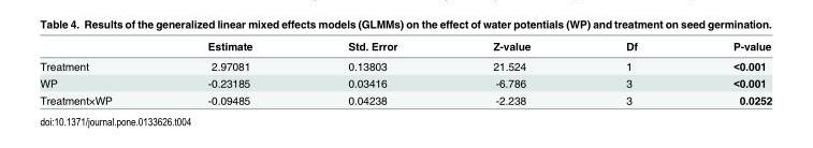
<table><thead><tr><td></td><td>Estimate</td><td>Std. Error</td><td>Z-value</td><td>Df</td><td>P-value</td></tr></thead><tbody><tr><td>Treatment</td><td>2.97081</td><td>0.13803</td><td>21.524</td><td>1</td><td>&lt;0.001</td></tr><tr><td>WP</td><td>-0.23185</td><td>0.03416</td><td>-6.786</td><td>3</td><td>&lt;0.001</td></tr><tr><td>Treatment×WP</td><td>-0.09485</td><td>0.04238</td><td>-2.238</td><td>3</td><td>0.0252</td></tr></tbody></table>